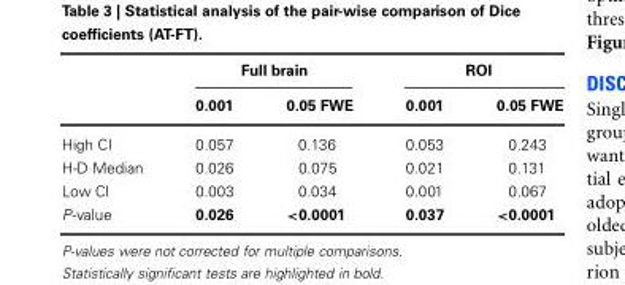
<table><thead><tr><td rowspan="2"></td><td colspan="2">Full brain</td><td colspan="2">ROI</td></tr><tr><td>0.001</td><td>0.05 FWE</td><td>0.001</td><td>0.05 FWE</td></tr></thead><tbody><tr><td>High CI</td><td>0.057</td><td>0.136</td><td>0.053</td><td>0.243</td></tr><tr><td>H-D Median</td><td>0.026</td><td>0.075</td><td>0.021</td><td>0.131</td></tr><tr><td>Low CI</td><td>0.003</td><td>0.034</td><td>0.001</td><td>0.067</td></tr><tr><td>P-value</td><td>0.026</td><td>&lt;0.0001</td><td>0.037</td><td>&lt;0.0001</td></tr></tbody></table>